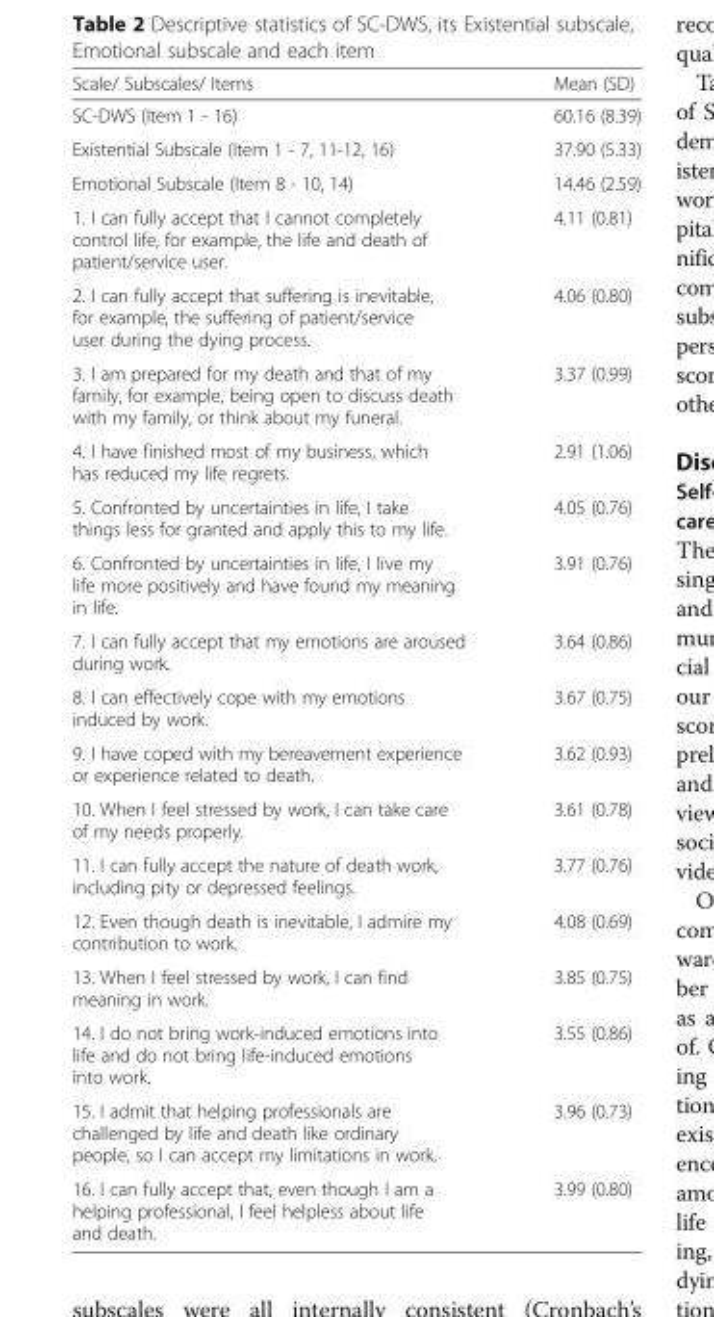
<table><thead><tr><td>Scale/ Subscales/ Items</td><td>Mean (SD)</td></tr></thead><tbody><tr><td>SC-DWS (Item 1 - 16)</td><td>60.16 (8.39)</td></tr><tr><td>Existential Subscale (Item 1 - 7, 11-12, 16)</td><td>37.90 (5.33)</td></tr><tr><td>Emotional Subscale (Item 8 - 10, 14)</td><td>14.46 (2.59)</td></tr><tr><td>1. I can fully accept that I cannot completely control life, for example, the life and death of patient/service user.</td><td>4.11 (0.81)</td></tr><tr><td>2. I can fully accept that suffering is inevitable, for example, the suffering of patient/service user during the dying process.</td><td>4.06 (0.80)</td></tr><tr><td>3. I am prepared for my death and that of my family, for example, being open to discuss death with my family, or think about my funeral.</td><td>3.37 (0.99)</td></tr><tr><td>4. I have finished most of my business, which has reduced my life regrets.</td><td>2.91 (1.06)</td></tr><tr><td>5. Confronted by uncertainties in life, I take things less for granted and apply this to my life.</td><td>4.05 (0.76)</td></tr><tr><td>6. Confronted by uncertainties in life, I live my life more positively and have found my meaning in life.</td><td>3.91 (0.76)</td></tr><tr><td>7. I can fully accept that my emotions are aroused during work.</td><td>3.64 (0.86)</td></tr><tr><td>8. I can effectively cope with my emotions induced by work.</td><td>3.67 (0.75)</td></tr><tr><td>9. I have coped with my bereavement experience or experience related to death.</td><td>3.62 (0.93)</td></tr><tr><td>10. When I feel stressed by work, I can take care of my needs properly.</td><td>3.61 (0.78)</td></tr><tr><td>11. I can fully accept the nature of death work, including pity or depressed feelings.</td><td>3.77 (0.76)</td></tr><tr><td>12. Even though death is inevitable, I admire my contribution to work.</td><td>4.08 (0.69)</td></tr><tr><td>13. When I feel stressed by work, I can find meaning in work.</td><td>3.85 (0.75)</td></tr><tr><td>14. I do not bring work-induced emotions into life and do not bring life-induced emotions into work.</td><td>3.55 (0.86)</td></tr><tr><td>15. I admit that helping professionals are challenged by life and death like ordinary people, so I can accept my limitations in work.</td><td>3.96 (0.73)</td></tr><tr><td>16. I can fully accept that, even though I am a helping professional, I feel helpless about life and death.</td><td>3.99 (0.80)</td></tr></tbody></table>